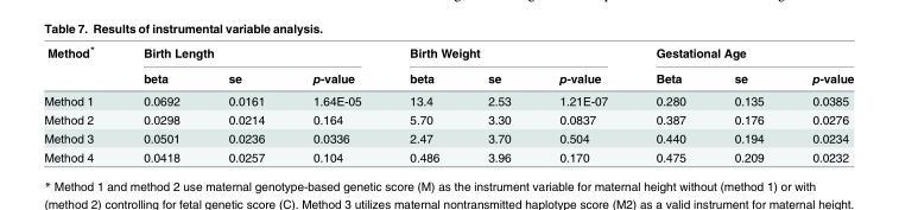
<table><thead><tr><td rowspan="2">Method*</td><td colspan="3">Birth Length</td><td colspan="3">Birth Weight</td><td colspan="3">Gestational Age</td></tr><tr><td>beta</td><td>se</td><td>p-value</td><td>beta</td><td>se</td><td>p-value</td><td>Beta</td><td>se</td><td>p-value</td></tr></thead><tbody><tr><td>Method 1</td><td>0.0692</td><td>0.0161</td><td>1.64E-05</td><td>13.4</td><td>2.53</td><td>1.21E-07</td><td>0.280</td><td>0.135</td><td>0.0385</td></tr><tr><td>Method 2</td><td>0.0298</td><td>0.0214</td><td>0.164</td><td>5.70</td><td>3.30</td><td>0.0837</td><td>0.387</td><td>0.176</td><td>0.0276</td></tr><tr><td>Method 3</td><td>0.0501</td><td>0.0236</td><td>0.0336</td><td>2.47</td><td>3.70</td><td>0.504</td><td>0.440</td><td>0.194</td><td>0.0234</td></tr><tr><td>Method 4</td><td>0.0418</td><td>0.0257</td><td>0.104</td><td>0.486</td><td>3.96</td><td>0.170</td><td>0.475</td><td>0.209</td><td>0.0232</td></tr></tbody></table>